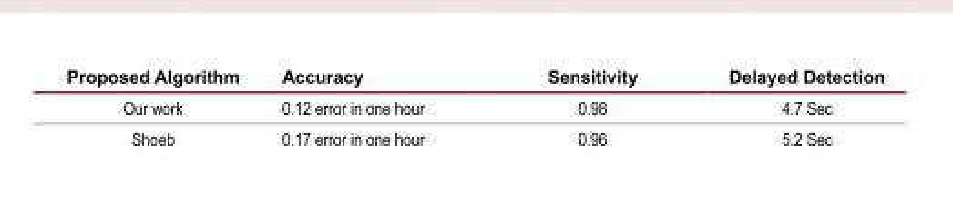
<table><thead><tr><td>Proposed Algorithm</td><td>Accuracy</td><td>Sensitivity</td><td>Delayed Detection</td></tr></thead><tbody><tr><td>Our work</td><td>0.12 error in one hour</td><td>0.98</td><td>4.7 Sec</td></tr><tr><td>Shoeb</td><td>0.17 error in one hour</td><td>0.96</td><td>5.2 Sec</td></tr></tbody></table>